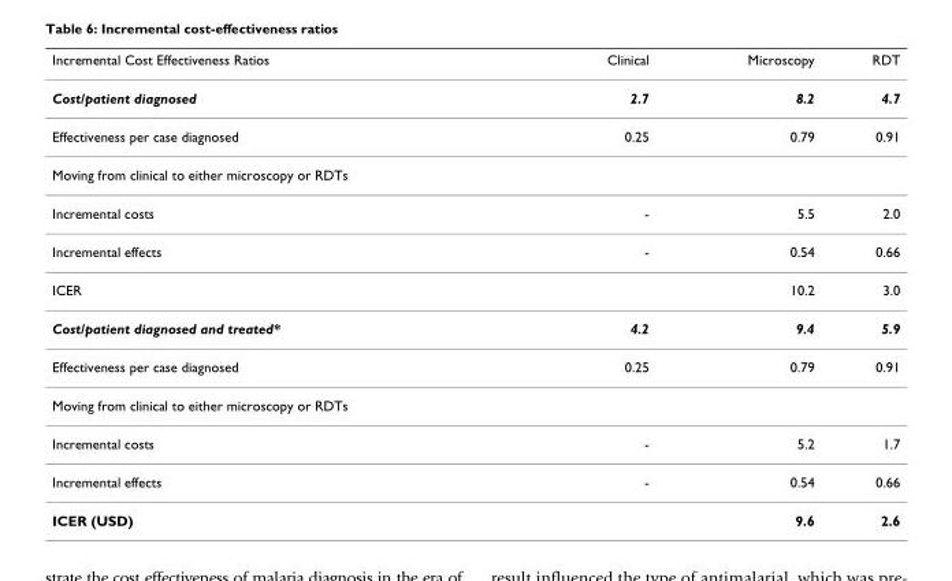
<table><thead><tr><td>Incremental Cost Effectiveness Ratios</td><td>Clinical</td><td>Microscopy</td><td>RDT</td></tr></thead><tbody><tr><td>Cost/patient diagnosed</td><td>2.7</td><td>8.2</td><td>4.7</td></tr><tr><td>Effectiveness per case diagnosed</td><td>0.25</td><td>0.79</td><td>0.91</td></tr><tr><td colspan="4">Moving from clinical to either microscopy or RDTs</td></tr><tr><td>Incremental costs</td><td>-</td><td>5.5</td><td>2.0</td></tr><tr><td>Incremental effects</td><td>-</td><td>0.54</td><td>0.66</td></tr><tr><td>ICER</td><td></td><td>10.2</td><td>3.0</td></tr><tr><td>Cost/patient diagnosed and treated*</td><td>4.2</td><td>9.4</td><td>5.9</td></tr><tr><td>Effectiveness per case diagnosed</td><td>0.25</td><td>0.79</td><td>0.91</td></tr><tr><td colspan="4">Moving from clinical to either microscopy or RDTs</td></tr><tr><td>Incremental costs</td><td>-</td><td>5.2</td><td>1.7</td></tr><tr><td>Incremental effects</td><td>-</td><td>0.54</td><td>0.66</td></tr><tr><td>ICER (USD)</td><td></td><td>9.6</td><td>2.6</td></tr></tbody></table>